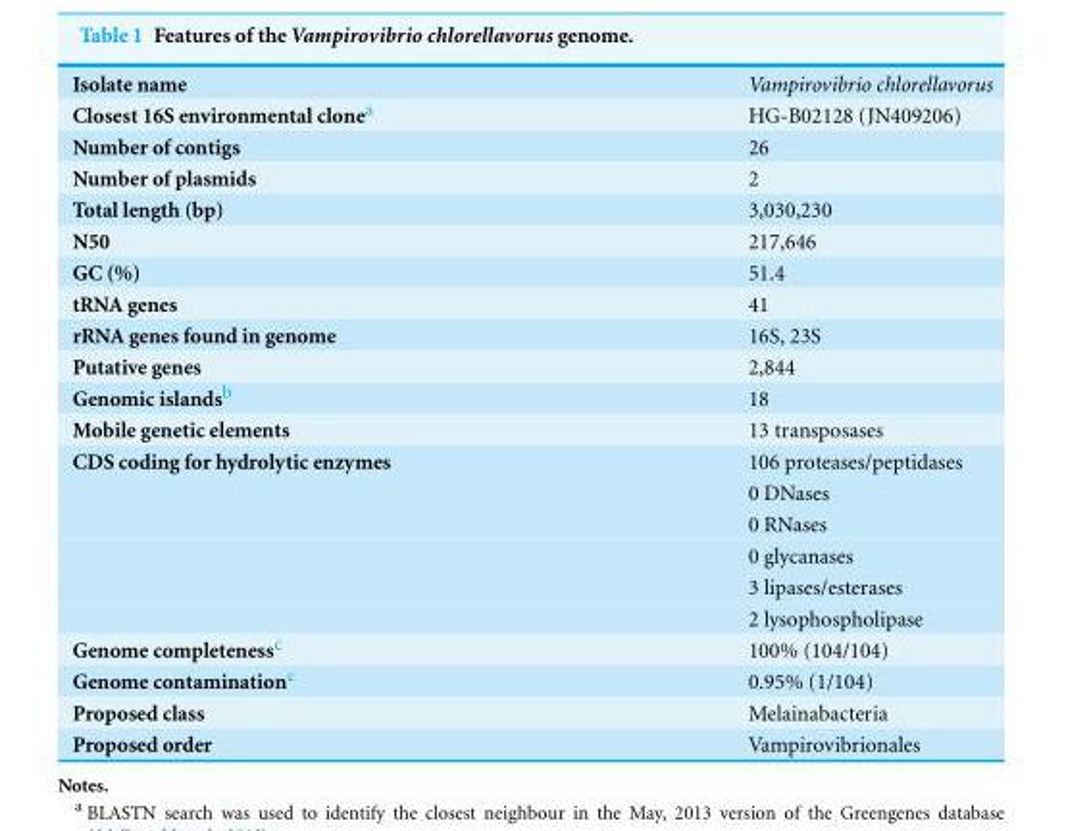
<table><tbody><tr><td>Isolate name</td><td>Vampirovibrio chlorellavorus</td></tr><tr><td>Closest 16S environmental clone<sup>a</sup></td><td>HG-B02128 (JN409206)</td></tr><tr><td>Number of contigs</td><td>26</td></tr><tr><td>Number of plasmids</td><td>2</td></tr><tr><td>Total length (bp)</td><td>3,030,230</td></tr><tr><td>N50</td><td>217,646</td></tr><tr><td>GC (%)</td><td>51.4</td></tr><tr><td>tRNA genes</td><td>41</td></tr><tr><td>rRNA genes found in genome</td><td>16S, 23S</td></tr><tr><td>Putative genes</td><td>2,844</td></tr><tr><td>Genomic islands<sup>b</sup></td><td>18</td></tr><tr><td>Mobile genetic elements</td><td>13 transposases</td></tr><tr><td rowspan="6">CDS coding for hydrolytic enzymes</td><td>106 proteases/peptidases</td></tr><tr><td>0 DNases</td></tr><tr><td>0 RNases</td></tr><tr><td>0 glycanases</td></tr><tr><td>3 lipases/esterases</td></tr><tr><td>2 lysophospholipase</td></tr><tr><td>Genome completeness<sup>c</sup></td><td>100% (104/104)</td></tr><tr><td>Genome contamination<sup>c</sup></td><td>0.95% (1/104)</td></tr><tr><td>Proposed class</td><td>Melainabacteria</td></tr><tr><td>Proposed order</td><td>Vampirovibrionales</td></tr></tbody></table>